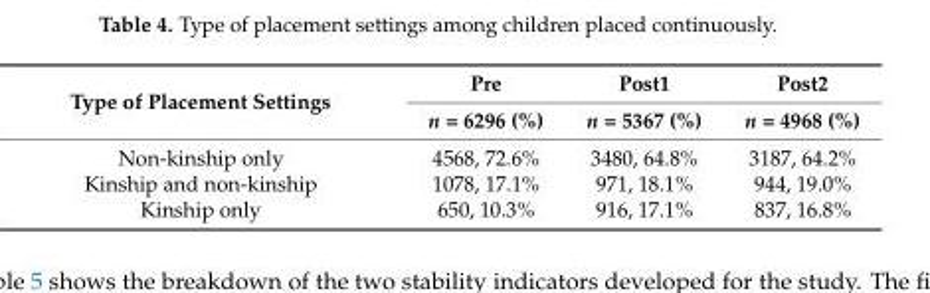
<table><thead><tr><td rowspan="2">Type of Placement Settings</td><td rowspan="2">Pre n = 6296 (%)</td><td rowspan="2">Post1 n = 5367 (%)</td><td rowspan="2">Post2 n = 4968 (%)</td></tr><tr></tr></thead><tbody><tr><td>Non-kinship only</td><td>4568, 72.6%</td><td>3480, 64.8%</td><td>3187, 64.2%</td></tr><tr><td>Kinship and non-kinship</td><td>1078, 17.1%</td><td>971, 18.1%</td><td>944, 19.0%</td></tr><tr><td>Kinship only</td><td>650, 10.3%</td><td>916, 17.1%</td><td>837, 16.8%</td></tr></tbody></table>